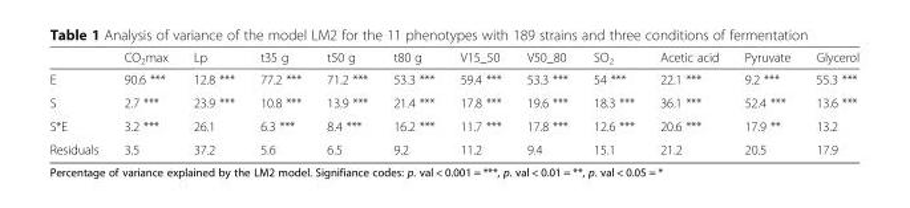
<table><thead><tr><td></td><td>CO<sub>2</sub>max</td><td>Lp</td><td>t35 g</td><td>t50 g</td><td>t80 g</td><td>V15_50</td><td>V50_80</td><td>SO<sub>2</sub></td><td>Acetic acid</td><td>Pyruvate</td><td>Glycerol</td></tr></thead><tbody><tr><td>E</td><td>90.6 ***</td><td>12.8 ***</td><td>77.2 ***</td><td>71.2 ***</td><td>53.3 ***</td><td>59.4 ***</td><td>53.3 ***</td><td>54 ***</td><td>22.1 ***</td><td>9.2 ***</td><td>55.3 ***</td></tr><tr><td>S</td><td>2.7 ***</td><td>23.9 ***</td><td>10.8 ***</td><td>13.9 ***</td><td>21.4 ***</td><td>17.8 ***</td><td>19.6 ***</td><td>18.3 ***</td><td>36.1 ***</td><td>52.4 ***</td><td>13.6 ***</td></tr><tr><td>S*E</td><td>3.2 ***</td><td>26.1</td><td>6.3 ***</td><td>8.4 ***</td><td>16.2 ***</td><td>11.7 ***</td><td>17.8 ***</td><td>12.6 ***</td><td>20.6 ***</td><td>17.9 **</td><td>13.2</td></tr><tr><td>Residuals</td><td>3.5</td><td>37.2</td><td>5.6</td><td>6.5</td><td>9.2</td><td>11.2</td><td>9.4</td><td>15.1</td><td>21.2</td><td>20.5</td><td>17.9</td></tr></tbody></table>